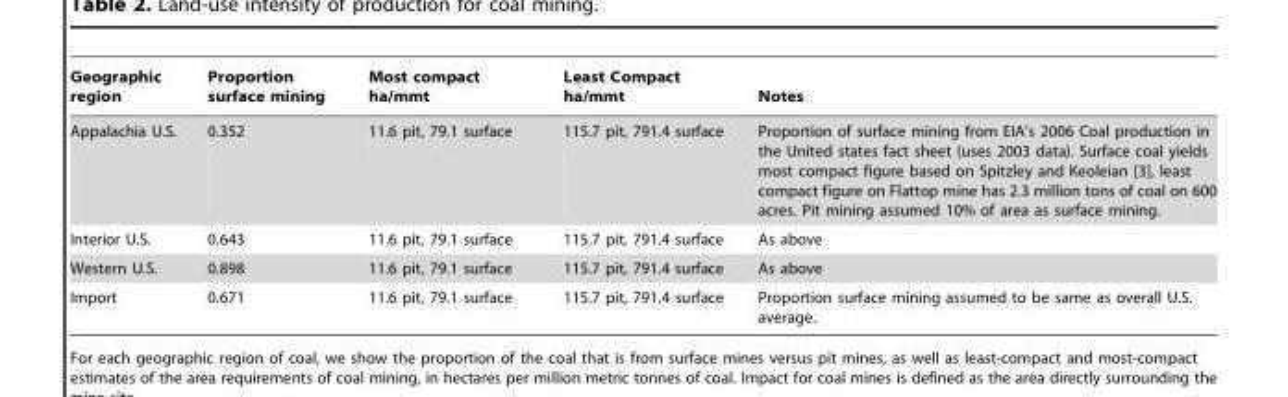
<table><thead><tr><td>Geographic region</td><td>Proportion surface mining</td><td>Most compact ha/mmt</td><td>Least Compact ha/mmt</td><td>Notes</td></tr></thead><tbody><tr><td>Appalachia U.S.</td><td>0.352</td><td>11.6 pit, 79.1 surface</td><td>115.7 pit, 791.4 surface</td><td>Proportion of surface mining from EIA’s 2006 Coal production in the United states fact sheet (uses 2003 data). Surface coal yields most compact figure based on Spitzley and Keoleian [3], least compact figure on Flattop mine has 2.3 million tons of coal on 600 acres. Pit mining assumed 10% of area as surface mining.</td></tr><tr><td>Interior U.S.</td><td>0.643</td><td>11.6 pit, 79.1 surface</td><td>115.7 pit, 791.4 surface</td><td>As above</td></tr><tr><td>Western U.S.</td><td>0.898</td><td>11.6 pit, 79.1 surface</td><td>115.7 pit, 791.4 surface</td><td>As above</td></tr><tr><td>Import</td><td>0.671</td><td>11.6 pit, 79.1 surface</td><td>115.7 pit, 791.4 surface</td><td>Proportion surface mining assumed to be same as overall U.S. average.</td></tr></tbody></table>